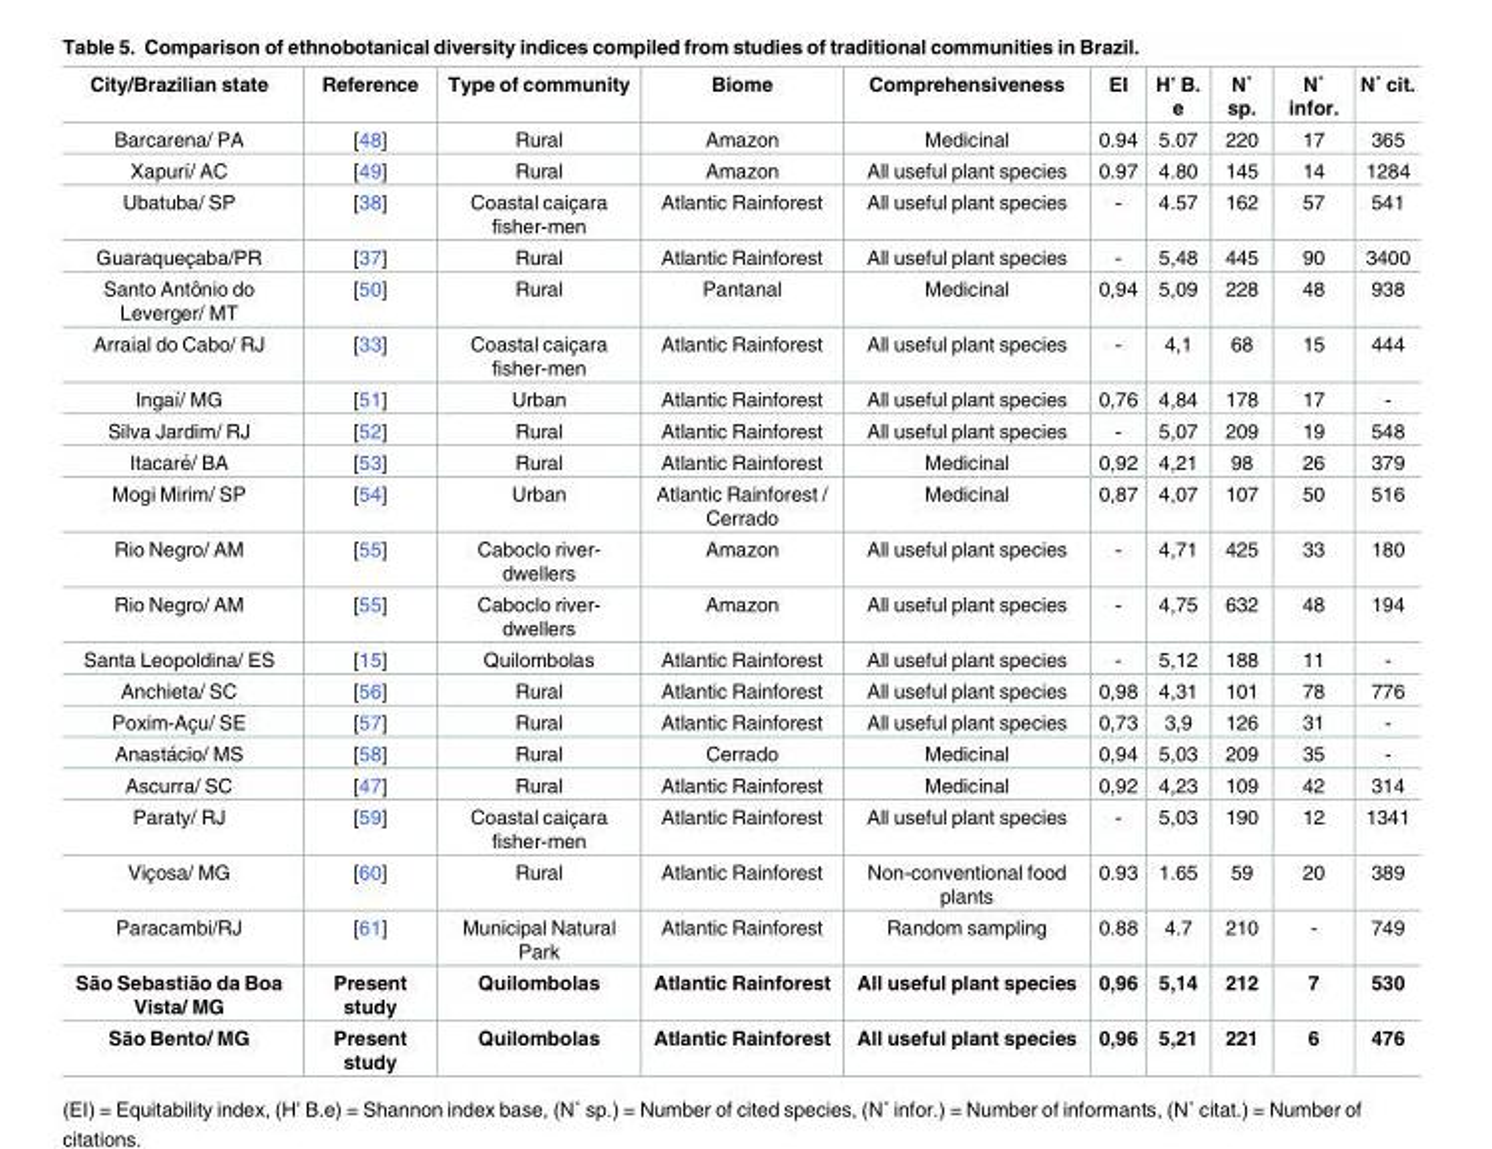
<table><thead><tr><td>City/Brazilian state</td><td>Reference</td><td>Type of community</td><td>Biome</td><td>Comprehensiveness</td><td>EI</td><td>H’ B. e</td><td>N˚ sp.</td><td>N˚ infor.</td><td>N˚ cit.</td></tr></thead><tbody><tr><td>Barcarena/ PA</td><td>[48]</td><td>Rural</td><td>Amazon</td><td>Medicinal</td><td>0.94</td><td>5.07</td><td>220</td><td>17</td><td>365</td></tr><tr><td>Xapurı´/ AC</td><td>[49]</td><td>Rural</td><td>Amazon</td><td>All useful plant species</td><td>0.97</td><td>4.80</td><td>145</td><td>14</td><td>1284</td></tr><tr><td>Ubatuba/ SP</td><td>[38]</td><td>Coastal caic¸ara fisher-men</td><td>Atlantic Rainforest</td><td>All useful plant species</td><td>-</td><td>4.57</td><td>162</td><td>57</td><td>541</td></tr><tr><td>Guaraquec¸aba/PR</td><td>[37]</td><td>Rural</td><td>Atlantic Rainforest</td><td>All useful plant species</td><td>-</td><td>5,48</td><td>445</td><td>90</td><td>3400</td></tr><tr><td>Santo Antoˆnio do Leverger/ MT</td><td>[50]</td><td>Rural</td><td>Pantanal</td><td>Medicinal</td><td>0,94</td><td>5,09</td><td>228</td><td>48</td><td>938</td></tr><tr><td>Arraial do Cabo/ RJ</td><td>[33]</td><td>Coastal caic¸ara fisher-men</td><td>Atlantic Rainforest</td><td>All useful plant species</td><td>-</td><td>4,1</td><td>68</td><td>15</td><td>444</td></tr><tr><td>Ingaı´/ MG</td><td>[51]</td><td>Urban</td><td>Atlantic Rainforest</td><td>All useful plant species</td><td>0,76</td><td>4,84</td><td>178</td><td>17</td><td>-</td></tr><tr><td>Silva Jardim/ RJ</td><td>[52]</td><td>Rural</td><td>Atlantic Rainforest</td><td>All useful plant species</td><td>-</td><td>5,07</td><td>209</td><td>19</td><td>548</td></tr><tr><td>Itacare´/ BA</td><td>[53]</td><td>Rural</td><td>Atlantic Rainforest</td><td>Medicinal</td><td>0,92</td><td>4,21</td><td>98</td><td>26</td><td>379</td></tr><tr><td>Mogi Mirim/ SP</td><td>[54]</td><td>Urban</td><td>Atlantic Rainforest / Cerrado</td><td>Medicinal</td><td>0,87</td><td>4,07</td><td>107</td><td>50</td><td>516</td></tr><tr><td>Rio Negro/ AM</td><td>[55]</td><td>Caboclo river- dwellers</td><td>Amazon</td><td>All useful plant species</td><td>-</td><td>4,71</td><td>425</td><td>33</td><td>180</td></tr><tr><td>Rio Negro/ AM</td><td>[55]</td><td>Caboclo river- dwellers</td><td>Amazon</td><td>All useful plant species</td><td>-</td><td>4,75</td><td>632</td><td>48</td><td>194</td></tr><tr><td>Santa Leopoldina/ ES</td><td>[15]</td><td>Quilombolas</td><td>Atlantic Rainforest</td><td>All useful plant species</td><td>-</td><td>5,12</td><td>188</td><td>11</td><td>-</td></tr><tr><td>Anchieta/ SC</td><td>[56]</td><td>Rural</td><td>Atlantic Rainforest</td><td>All useful plant species</td><td>0,98</td><td>4,31</td><td>101</td><td>78</td><td>776</td></tr><tr><td>Poxim-Ac¸u/ SE</td><td>[57]</td><td>Rural</td><td>Atlantic Rainforest</td><td>All useful plant species</td><td>0,73</td><td>3,9</td><td>126</td><td>31</td><td>-</td></tr><tr><td>Anasta´cio/ MS</td><td>[58]</td><td>Rural</td><td>Cerrado</td><td>Medicinal</td><td>0,94</td><td>5,03</td><td>209</td><td>35</td><td>-</td></tr><tr><td>Ascurra/ SC</td><td>[47]</td><td>Rural</td><td>Atlantic Rainforest</td><td>Medicinal</td><td>0,92</td><td>4,23</td><td>109</td><td>42</td><td>314</td></tr><tr><td>Paraty/ RJ</td><td>[59]</td><td>Coastal caic¸ara fisher-men</td><td>Atlantic Rainforest</td><td>All useful plant species</td><td>-</td><td>5,03</td><td>190</td><td>12</td><td>1341</td></tr><tr><td>Vic¸osa/ MG</td><td>[60]</td><td>Rural</td><td>Atlantic Rainforest</td><td>Non-conventional food plants</td><td>0.93</td><td>1.65</td><td>59</td><td>20</td><td>389</td></tr><tr><td>Paracambi/RJ</td><td>[61]</td><td>Municipal Natural Park</td><td>Atlantic Rainforest</td><td>Random sampling</td><td>0.88</td><td>4.7</td><td>210</td><td>-</td><td>749</td></tr><tr><td>São Sebastião da Boa Vista/ MG</td><td>Present study</td><td>Quilombolas</td><td>Atlantic Rainforest</td><td>All useful plant species</td><td>0,96</td><td>5,14</td><td>212</td><td>7</td><td>530</td></tr><tr><td>São Bento/ MG</td><td>Present study</td><td>Quilombolas</td><td>Atlantic Rainforest</td><td>All useful plant species</td><td>0,96</td><td>5,21</td><td>221</td><td>6</td><td>476</td></tr></tbody></table>